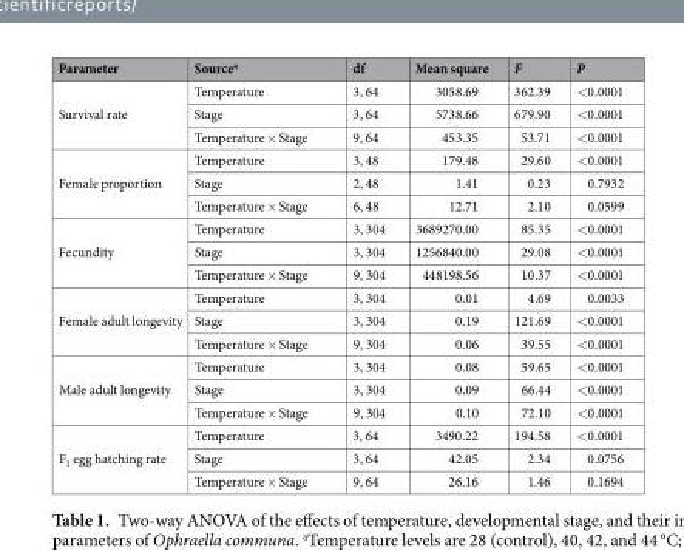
<table><thead><tr><td>Parameter</td><td>Source<sup>a</sup></td><td>df</td><td>Mean square</td><td>F</td><td>P</td></tr></thead><tbody><tr><td rowspan="3">Survival rate</td><td>Temperature</td><td>3, 64</td><td>3058.69</td><td>362.39</td><td>&lt;0.0001</td></tr><tr><td>Stage</td><td>3, 64</td><td>5738.66</td><td>679.90</td><td>&lt;0.0001</td></tr><tr><td>Temperature × Stage</td><td>9, 64</td><td>453.35</td><td>53.71</td><td>&lt;0.0001</td></tr><tr><td rowspan="3">Female proportion</td><td>Temperature</td><td>3, 48</td><td>179.48</td><td>29.60</td><td>&lt;0.0001</td></tr><tr><td>Stage</td><td>2, 48</td><td>1.41</td><td>0.23</td><td>0.7932</td></tr><tr><td>Temperature × Stage</td><td>6, 48</td><td>12.71</td><td>2.10</td><td>0.0599</td></tr><tr><td rowspan="3">Fecundity</td><td>Temperature</td><td>3, 304</td><td>3689270.00</td><td>85.35</td><td>&lt;0.0001</td></tr><tr><td>Stage</td><td>3, 304</td><td>1256840.00</td><td>29.08</td><td>&lt;0.0001</td></tr><tr><td>Temperature × Stage</td><td>9, 304</td><td>448198.56</td><td>10.37</td><td>&lt;0.0001</td></tr><tr><td rowspan="3">Female adult longevity</td><td>Temperature</td><td>3, 304</td><td>0.01</td><td>4.69</td><td>0.0033</td></tr><tr><td>Stage</td><td>3, 304</td><td>0.19</td><td>121.69</td><td>&lt;0.0001</td></tr><tr><td>Temperature × Stage</td><td>9, 304</td><td>0.06</td><td>39.55</td><td>&lt;0.0001</td></tr><tr><td rowspan="3">Male adult longevity</td><td>Temperature</td><td>3, 304</td><td>0.08</td><td>59.65</td><td>&lt;0.0001</td></tr><tr><td>Stage</td><td>3, 304</td><td>0.09</td><td>66.44</td><td>&lt;0.0001</td></tr><tr><td>Temperature × Stage</td><td>9, 304</td><td>0.10</td><td>72.10</td><td>&lt;0.0001</td></tr><tr><td rowspan="3">F<sub>1</sub> egg hatching rate</td><td>Temperature</td><td>3, 64</td><td>3490.22</td><td>194.58</td><td>&lt;0.0001</td></tr><tr><td>Stage</td><td>3, 64</td><td>42.05</td><td>2.34</td><td>0.0756</td></tr><tr><td>Temperature × Stage</td><td>9, 64</td><td>26.16</td><td>1.46</td><td>0.1694</td></tr></tbody></table>